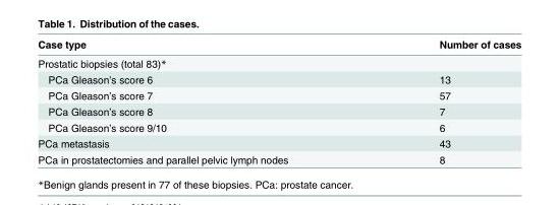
<table><thead><tr><td>Case type</td><td>Number of cases</td></tr></thead><tbody><tr><td colspan="2">Prostatic biopsies (total 83)*</td></tr><tr><td>PCa Gleason’s score 6</td><td>13</td></tr><tr><td>PCa Gleason’s score 7</td><td>57</td></tr><tr><td>PCa Gleason’s score 8</td><td>7</td></tr><tr><td>PCa Gleason’s score 9/10</td><td>6</td></tr><tr><td>PCa metastasis</td><td>43</td></tr><tr><td>PCa in prostatectomies and parallel pelvic lymph nodes</td><td>8</td></tr></tbody></table>